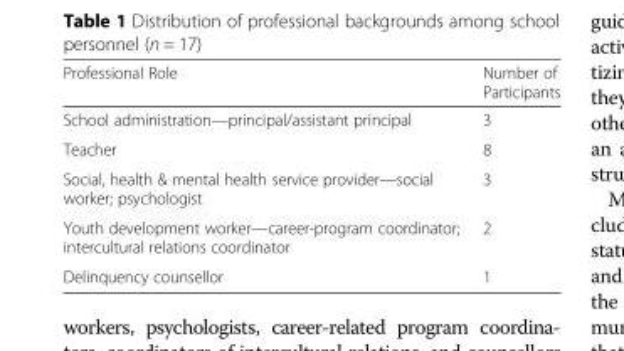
<table><thead><tr><td>Professional Role</td><td>Number of Participants</td></tr></thead><tbody><tr><td>School administration—principal/assistant principal</td><td>3</td></tr><tr><td>Teacher</td><td>8</td></tr><tr><td>Social, health &amp; mental health service provider—social worker; psychologist</td><td>3</td></tr><tr><td>Youth development worker—career-program coordinator; intercultural relations coordinator</td><td>2</td></tr><tr><td>Delinquency counsellor</td><td>1</td></tr></tbody></table>